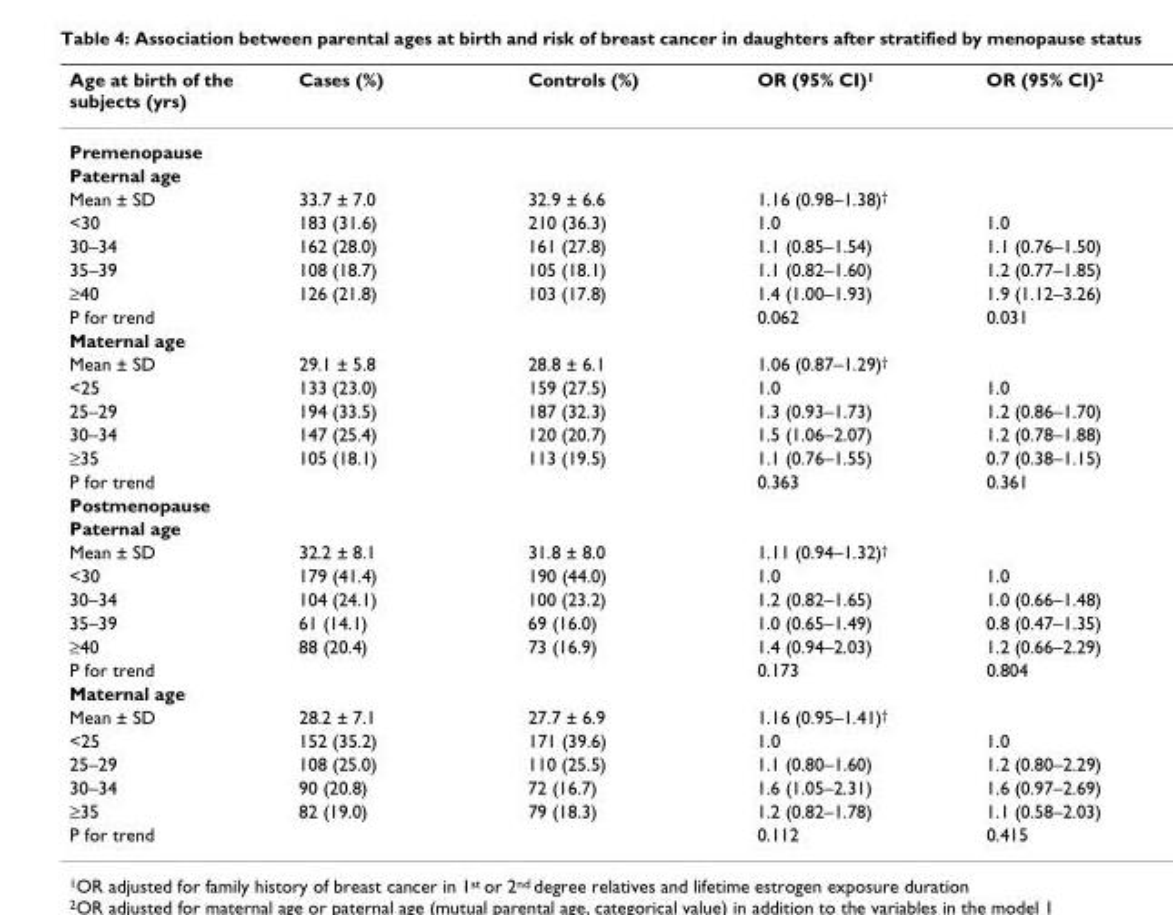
<table><thead><tr><td>Age at birth of the subjects (yrs)</td><td>Cases (%)</td><td>Controls (%)</td><td>OR (95% CI)1</td><td>OR (95% CI)2</td></tr></thead><tbody><tr><td colspan="5">Premenopause</td></tr><tr><td colspan="5">Paternal age</td></tr><tr><td>Mean ± SD</td><td>33.7 ± 7.0</td><td>32.9 ± 6.6</td><td>1.16 (0.98–1.38)†</td><td></td></tr><tr><td>&lt;30</td><td>183 (31.6)</td><td>210 (36.3)</td><td>1.0</td><td>1.0</td></tr><tr><td>30–34</td><td>162 (28.0)</td><td>161 (27.8)</td><td>1.1 (0.85–1.54)</td><td>1.1 (0.76–1.50)</td></tr><tr><td>35–39</td><td>108 (18.7)</td><td>105 (18.1)</td><td>1.1 (0.82–1.60)</td><td>1.2 (0.77–1.85)</td></tr><tr><td>≥40</td><td>126 (21.8)</td><td>103 (17.8)</td><td>1.4 (1.00–1.93)</td><td>1.9 (1.12–3.26)</td></tr><tr><td>P for trend</td><td></td><td></td><td>0.062</td><td>0.031</td></tr><tr><td colspan="5">Maternal age</td></tr><tr><td>Mean ± SD</td><td>29.1 ± 5.8</td><td>28.8 ± 6.1</td><td>1.06 (0.87–1.29)†</td><td></td></tr><tr><td>&lt;25</td><td>133 (23.0)</td><td>159 (27.5)</td><td>1.0</td><td>1.0</td></tr><tr><td>25–29</td><td>194 (33.5)</td><td>187 (32.3)</td><td>1.3 (0.93–1.73)</td><td>1.2 (0.86–1.70)</td></tr><tr><td>30–34</td><td>147 (25.4)</td><td>120 (20.7)</td><td>1.5 (1.06–2.07)</td><td>1.2 (0.78–1.88)</td></tr><tr><td>≥35</td><td>105 (18.1)</td><td>113 (19.5)</td><td>1.1 (0.76–1.55)</td><td>0.7 (0.38–1.15)</td></tr><tr><td>P for trend</td><td></td><td></td><td>0.363</td><td>0.361</td></tr><tr><td colspan="5">Postmenopause</td></tr><tr><td colspan="5">Paternal age</td></tr><tr><td>Mean ± SD</td><td>32.2 ± 8.1</td><td>31.8 ± 8.0</td><td>1.11 (0.94–1.32)†</td><td></td></tr><tr><td>&lt;30</td><td>179 (41.4)</td><td>190 (44.0)</td><td>1.0</td><td>1.0</td></tr><tr><td>30–34</td><td>104 (24.1)</td><td>100 (23.2)</td><td>1.2 (0.82–1.65)</td><td>1.0 (0.66–1.48)</td></tr><tr><td>35–39</td><td>61 (14.1)</td><td>69 (16.0)</td><td>1.0 (0.65–1.49)</td><td>0.8 (0.47–1.35)</td></tr><tr><td>≥40</td><td>88 (20.4)</td><td>73 (16.9)</td><td>1.4 (0.94–2.03)</td><td>1.2 (0.66–2.29)</td></tr><tr><td>P for trend</td><td></td><td></td><td>0.173</td><td>0.804</td></tr><tr><td colspan="5">Maternal age</td></tr><tr><td>Mean ± SD</td><td>28.2 ± 7.1</td><td>27.7 ± 6.9</td><td>1.16 (0.95–1.41)†</td><td></td></tr><tr><td>&lt;25</td><td>152 (35.2)</td><td>171 (39.6)</td><td>1.0</td><td>1.0</td></tr><tr><td>25–29</td><td>108 (25.0)</td><td>110 (25.5)</td><td>1.1 (0.80–1.60)</td><td>1.2 (0.80–2.29)</td></tr><tr><td>30–34</td><td>90 (20.8)</td><td>72 (16.7)</td><td>1.6 (1.05–2.31)</td><td>1.6 (0.97–2.69)</td></tr><tr><td>≥35</td><td>82 (19.0)</td><td>79 (18.3)</td><td>1.2 (0.82–1.78)</td><td>1.1 (0.58–2.03)</td></tr><tr><td>P for trend</td><td></td><td></td><td>0.112</td><td>0.415</td></tr></tbody></table>